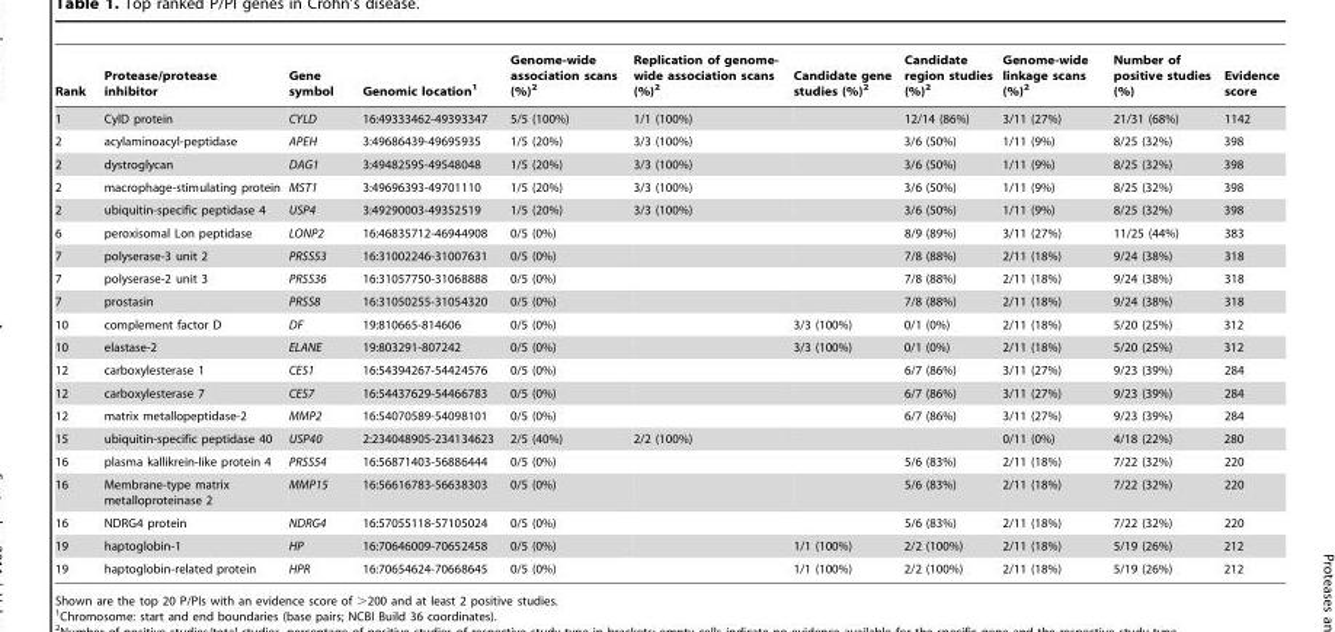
<table><thead><tr><td>Rank</td><td>Protease/protease inhibitor</td><td>Gene symbol</td><td>Genomic location<sup>1</sup></td><td>Genome-wide association scans (%)<sup>2</sup></td><td>Replication of genome- wide association scans (%)<sup>2</sup></td><td>Candidate gene studies (%)<sup>2</sup></td><td>Candidate region studies (%)<sup>2</sup></td><td>Genome-wide linkage scans (%)<sup>2</sup></td><td>Number of positive studies (%)</td><td>Evidence score</td></tr></thead><tbody><tr><td>1</td><td>CylD protein</td><td>CYLD</td><td>16:49333462-49393347</td><td>5/5 (100%)</td><td>1/1 (100%)</td><td></td><td>12/14 (86%)</td><td>3/11 (27%)</td><td>21/31 (68%)</td><td>1142</td></tr><tr><td>2</td><td>acylaminoacyl-peptidase</td><td>APEH</td><td>3:49686439-49695935</td><td>1/5 (20%)</td><td>3/3 (100%)</td><td></td><td>3/6 (50%)</td><td>1/11 (9%)</td><td>8/25 (32%)</td><td>398</td></tr><tr><td>2</td><td>dystroglycan</td><td>DAG1</td><td>3:49482595-49548048</td><td>1/5 (20%)</td><td>3/3 (100%)</td><td></td><td>3/6 (50%)</td><td>1/11 (9%)</td><td>8/25 (32%)</td><td>398</td></tr><tr><td>2</td><td>macrophage-stimulating protein</td><td>MST1</td><td>3:49696393-49701110</td><td>1/5 (20%)</td><td>3/3 (100%)</td><td></td><td>3/6 (50%)</td><td>1/11 (9%)</td><td>8/25 (32%)</td><td>398</td></tr><tr><td>2</td><td>ubiquitin-specific peptidase 4</td><td>USP4</td><td>3:49290003-49352519</td><td>1/5 (20%)</td><td>3/3 (100%)</td><td></td><td>3/6 (50%)</td><td>1/11 (9%)</td><td>8/25 (32%)</td><td>398</td></tr><tr><td>6</td><td>peroxisomal Lon peptidase</td><td>LONP2</td><td>16:46835712-46944908</td><td>0/5 (0%)</td><td></td><td></td><td>8/9 (89%)</td><td>3/11 (27%)</td><td>11/25 (44%)</td><td>383</td></tr><tr><td>7</td><td>polyserase-3 unit 2</td><td>PRSS53</td><td>16:31002246-31007631</td><td>0/5 (0%)</td><td></td><td></td><td>7/8 (88%)</td><td>2/11 (18%)</td><td>9/24 (38%)</td><td>318</td></tr><tr><td>7</td><td>polyserase-2 unit 3</td><td>PRSS36</td><td>16:31057750-31068888</td><td>0/5 (0%)</td><td></td><td></td><td>7/8 (88%)</td><td>2/11 (18%)</td><td>9/24 (38%)</td><td>318</td></tr><tr><td>7</td><td>prostasin</td><td>PRSS8</td><td>16:31050255-31054320</td><td>0/5 (0%)</td><td></td><td></td><td>7/8 (88%)</td><td>2/11 (18%)</td><td>9/24 (38%)</td><td>318</td></tr><tr><td>10</td><td>complement factor D</td><td>DF</td><td>19:810665-814606</td><td>0/5 (0%)</td><td></td><td>3/3 (100%)</td><td>0/1 (0%)</td><td>2/11 (18%)</td><td>5/20 (25%)</td><td>312</td></tr><tr><td>10</td><td>elastase-2</td><td>ELANE</td><td>19:803291-807242</td><td>0/5 (0%)</td><td></td><td>3/3 (100%)</td><td>0/1 (0%)</td><td>2/11 (18%)</td><td>5/20 (25%)</td><td>312</td></tr><tr><td>12</td><td>carboxylesterase 1</td><td>CES1</td><td>16:54394267-54424576</td><td>0/5 (0%)</td><td></td><td></td><td>6/7 (86%)</td><td>3/11 (27%)</td><td>9/23 (39%)</td><td>284</td></tr><tr><td>12</td><td>carboxylesterase 7</td><td>CES7</td><td>16:54437629-54466783</td><td>0/5 (0%)</td><td></td><td></td><td>6/7 (86%)</td><td>3/11 (27%)</td><td>9/23 (39%)</td><td>284</td></tr><tr><td>12</td><td>matrix metallopeptidase-2</td><td>MMP2</td><td>16:54070589-54098101</td><td>0/5 (0%)</td><td></td><td></td><td>6/7 (86%)</td><td>3/11 (27%)</td><td>9/23 (39%)</td><td>284</td></tr><tr><td>15</td><td>ubiquitin-specific peptidase 40</td><td>USP40</td><td>2:234048905-234134623</td><td>2/5 (40%)</td><td>2/2 (100%)</td><td></td><td></td><td>0/11 (0%)</td><td>4/18 (22%)</td><td>280</td></tr><tr><td>16</td><td>plasma kallikrein-like protein 4</td><td>PRSS54</td><td>16:56871403-56886444</td><td>0/5 (0%)</td><td></td><td></td><td>5/6 (83%)</td><td>2/11 (18%)</td><td>7/22 (32%)</td><td>220</td></tr><tr><td>16</td><td>Membrane-type matrix metalloproteinase 2</td><td>MMP15</td><td>16:56616783-56638303</td><td>0/5 (0%)</td><td></td><td></td><td>5/6 (83%)</td><td>2/11 (18%)</td><td>7/22 (32%)</td><td>220</td></tr><tr><td>16</td><td>NDRG4 protein</td><td>NDRG4</td><td>16:57055118-57105024</td><td>0/5 (0%)</td><td></td><td></td><td>5/6 (83%)</td><td>2/11 (18%)</td><td>7/22 (32%)</td><td>220</td></tr><tr><td>19</td><td>haptoglobin-1</td><td>HP</td><td>16:70646009-70652458</td><td>0/5 (0%)</td><td></td><td>1/1 (100%)</td><td>2/2 (100%)</td><td>2/11 (18%)</td><td>5/19 (26%)</td><td>212</td></tr><tr><td>19</td><td>haptoglobin-related protein</td><td>HPR</td><td>16:70654624-70668645</td><td>0/5 (0%)</td><td></td><td>1/1 (100%)</td><td>2/2 (100%)</td><td>2/11 (18%)</td><td>5/19 (26%)</td><td>212</td></tr></tbody></table>